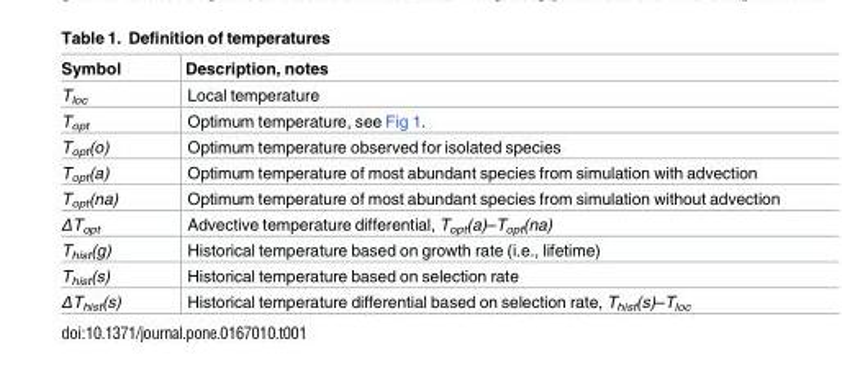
<table><thead><tr><td>Symbol</td><td>Description, notes</td></tr></thead><tbody><tr><td>T<sub>loc</sub></td><td>Local temperature</td></tr><tr><td>T<sub>opt</sub></td><td>Optimum temperature, see Fig 1.</td></tr><tr><td>T<sub>opt</sub>(o)</td><td>Optimum temperature observed for isolated species</td></tr><tr><td>T<sub>opt</sub>(a)</td><td>Optimum temperature of most abundant species from simulation with advection</td></tr><tr><td>T<sub>opt</sub>(na)</td><td>Optimum temperature of most abundant species from simulation without advection</td></tr><tr><td>ΔT<sub>opt</sub></td><td>Advective temperature differential, T<sub>opt</sub>(a)–T<sub>opt</sub>(na)</td></tr><tr><td>T<sub>hist</sub>(g)</td><td>Historical temperature based on growth rate (i.e., lifetime)</td></tr><tr><td>T<sub>hist</sub>(s)</td><td>Historical temperature based on selection rate</td></tr><tr><td>ΔT<sub>hist</sub>(s)</td><td>Historical temperature differential based on selection rate, T<sub>hist</sub>(s)–T<sub>loc</sub></td></tr></tbody></table>